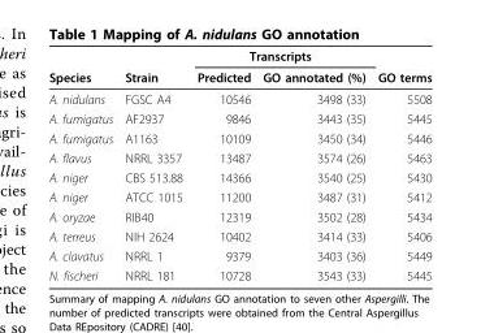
<table><thead><tr><td rowspan="2">Species</td><td rowspan="2">Strain</td><td colspan="2">Transcripts</td><td rowspan="2">GO terms</td></tr><tr><td>Predicted</td><td>GO annotated (%)</td></tr></thead><tbody><tr><td>A. nidulans</td><td>FGSC A4</td><td>10546</td><td>3498 (33)</td><td>5508</td></tr><tr><td>A. fumigatus</td><td>AF2937</td><td>9846</td><td>3443 (35)</td><td>5445</td></tr><tr><td>A. fumigatus</td><td>A1163</td><td>10109</td><td>3450 (34)</td><td>5446</td></tr><tr><td>A. flavus</td><td>NRRL 3357</td><td>13487</td><td>3574 (26)</td><td>5463</td></tr><tr><td>A. niger</td><td>CBS 513.88</td><td>14366</td><td>3540 (25)</td><td>5430</td></tr><tr><td>A. niger</td><td>ATCC 1015</td><td>11200</td><td>3487 (31)</td><td>5412</td></tr><tr><td>A. oryzae</td><td>RIB40</td><td>12319</td><td>3502 (28)</td><td>5434</td></tr><tr><td>A. terreus</td><td>NIH 2624</td><td>10402</td><td>3414 (33)</td><td>5406</td></tr><tr><td>A. clavatus</td><td>NRRL 1</td><td>9379</td><td>3403 (36)</td><td>5449</td></tr><tr><td>N. fischeri</td><td>NRRL 181</td><td>10728</td><td>3543 (33)</td><td>5445</td></tr></tbody></table>